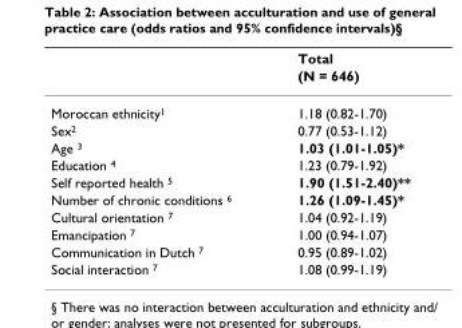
<table><thead><tr><td rowspan="2"></td><td rowspan="2">Total (N = 646)</td></tr><tr></tr></thead><tbody><tr><td>Moroccan ethnicity<sup>1</sup></td><td>1.18 (0.82-1.70)</td></tr><tr><td>Sex<sup>2</sup></td><td>0.77 (0.53-1.12)</td></tr><tr><td>Age <sup>3</sup></td><td>1.03 (1.01-1.05)*</td></tr><tr><td>Education <sup>4</sup></td><td>1.23 (0.79-1.92)</td></tr><tr><td>Self reported health <sup>5</sup></td><td>1.90 (1.51-2.40)**</td></tr><tr><td>Number of chronic conditions <sup>6</sup></td><td>1.26 (1.09-1.45)*</td></tr><tr><td>Cultural orientation <sup>7</sup></td><td>1.04 (0.92-1.19)</td></tr><tr><td>Emancipation <sup>7</sup></td><td>1.00 (0.94-1.07)</td></tr><tr><td>Communication in Dutch <sup>7</sup></td><td>0.95 (0.89-1.02)</td></tr><tr><td>Social interaction <sup>7</sup></td><td>1.08 (0.99-1.19)</td></tr></tbody></table>